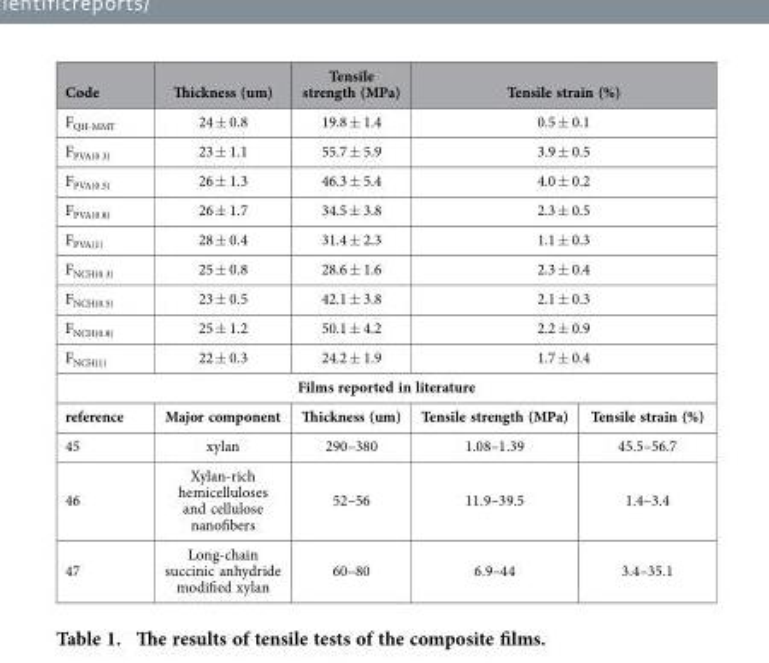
<table><thead><tr><td>Code</td><td>Thickness (um)</td><td>Tensile strength (MPa)</td><td colspan="2">Tensile strain (%)</td></tr></thead><tbody><tr><td>F<sub>QH-MMT</sub></td><td>24 ± 0.8</td><td>19.8 ± 1.4</td><td colspan="2">0.5 ± 0.1</td></tr><tr><td>F<sub>PVA(0.3)</sub></td><td>23 ± 1.1</td><td>55.7 ± 5.9</td><td colspan="2">3.9 ± 0.5</td></tr><tr><td>F<sub>PVA(0.5)</sub></td><td>26 ± 1.3</td><td>46.3 ± 5.4</td><td colspan="2">4.0 ± 0.2</td></tr><tr><td>F<sub>PVA(0.8)</sub></td><td>26 ± 1.7</td><td>34.5 ± 3.8</td><td colspan="2">2.3 ± 0.5</td></tr><tr><td>F<sub>PVA(1)</sub></td><td>28 ± 0.4</td><td>31.4 ± 2.3</td><td colspan="2">1.1 ± 0.3</td></tr><tr><td>F<sub>NCH(0.3)</sub></td><td>25 ± 0.8</td><td>28.6 ± 1.6</td><td colspan="2">2.3 ± 0.4</td></tr><tr><td>F<sub>NCH(0.5)</sub></td><td>23 ± 0.5</td><td>42.1 ± 3.8</td><td colspan="2">2.1 ± 0.3</td></tr><tr><td>F<sub>NCH(0.8)</sub></td><td>25 ± 1.2</td><td>50.1 ± 4.2</td><td colspan="2">2.2 ± 0.9</td></tr><tr><td>F<sub>NCH(1)</sub></td><td>22 ± 0.3</td><td>24.2 ± 1.9</td><td colspan="2">1.7 ± 0.4</td></tr><tr><td colspan="5">Films reported in literature</td></tr><tr><td>reference</td><td>Major component</td><td>Thickness (um)</td><td>Tensile strength (MPa)</td><td>Tensile strain (%)</td></tr><tr><td>45</td><td>xylan</td><td>290–380</td><td>1.08–1.39</td><td>45.5–56.7</td></tr><tr><td>46</td><td>Xylan-rich hemicelluloses and cellulose nanofibers</td><td>52–56</td><td>11.9–39.5</td><td>1.4–3.4</td></tr><tr><td>47</td><td>Long-chain succinic anhydride modified xylan</td><td>60–80</td><td>6.9–44</td><td>3.4–35.1</td></tr></tbody></table>